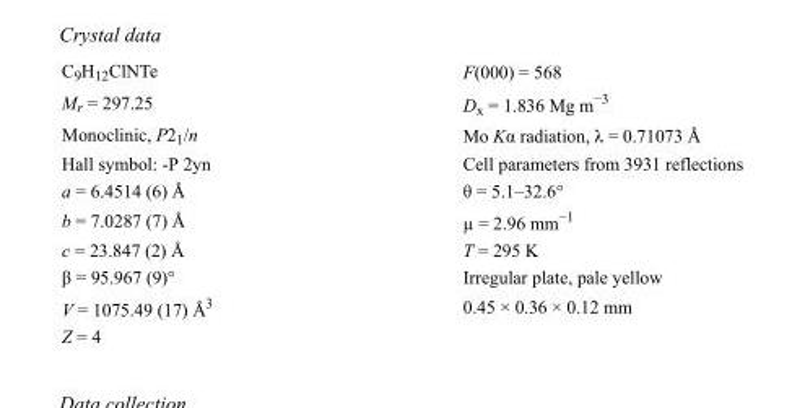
<table><tbody><tr><td>C<sub>9</sub>H<sub>12</sub>ClNTe</td><td>F(000) = 568</td></tr><tr><td>M<sub>r</sub> = 297.25</td><td>D<sub>x</sub> = 1.836 Mg m<sup>−3</sup></td></tr><tr><td>Monoclinic, P2<sub>1</sub>/n</td><td>Mo Kα radiation, λ = 0.71073 Å</td></tr><tr><td>Hall symbol: -P 2yn</td><td>Cell parameters from 3931 reflections</td></tr><tr><td>a = 6.4514 (6) Å</td><td>θ = 5.1–32.6°</td></tr><tr><td>b = 7.0287 (7) Å</td><td>µ = 2.96 mm<sup>−1</sup></td></tr><tr><td>c = 23.847 (2) Å</td><td>T = 295 K</td></tr><tr><td>β = 95.967 (9)°</td><td>Irregular plate, pale yellow</td></tr><tr><td>V = 1075.49 (17) Å<sup>3</sup></td><td>0.45 × 0.36 × 0.12 mm</td></tr><tr><td>Z = 4</td><td></td></tr></tbody></table>